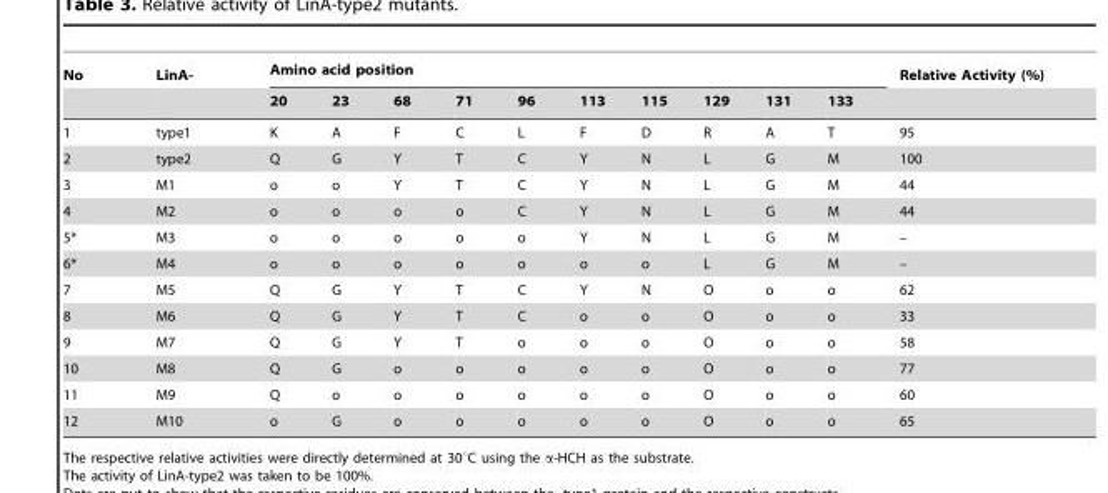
<table><thead><tr><td rowspan="2">No</td><td rowspan="2">LinA-</td><td colspan="10">Amino acid position</td><td rowspan="2">Relative Activity (%)</td></tr><tr><td>20</td><td>23</td><td>68</td><td>71</td><td>96</td><td>113</td><td>115</td><td>129</td><td>131</td><td>133</td></tr></thead><tbody><tr><td>1</td><td>type1</td><td>K</td><td>A</td><td>F</td><td>C</td><td>L</td><td>F</td><td>D</td><td>R</td><td>A</td><td>T</td><td>95</td></tr><tr><td>2</td><td>type2</td><td>Q</td><td>G</td><td>Y</td><td>T</td><td>C</td><td>Y</td><td>N</td><td>L</td><td>G</td><td>M</td><td>100</td></tr><tr><td>3</td><td>M1</td><td>o</td><td>o</td><td>Y</td><td>T</td><td>C</td><td>Y</td><td>N</td><td>L</td><td>G</td><td>M</td><td>44</td></tr><tr><td>4</td><td>M2</td><td>o</td><td>o</td><td>o</td><td>o</td><td>C</td><td>Y</td><td>N</td><td>L</td><td>G</td><td>M</td><td>44</td></tr><tr><td>5*</td><td>M3</td><td>o</td><td>o</td><td>o</td><td>o</td><td>o</td><td>Y</td><td>N</td><td>L</td><td>G</td><td>M</td><td>–</td></tr><tr><td>6*</td><td>M4</td><td>o</td><td>o</td><td>o</td><td>o</td><td>o</td><td>o</td><td>o</td><td>L</td><td>G</td><td>M</td><td>–</td></tr><tr><td>7</td><td>M5</td><td>Q</td><td>G</td><td>Y</td><td>T</td><td>C</td><td>Y</td><td>N</td><td>O</td><td>o</td><td>o</td><td>62</td></tr><tr><td>8</td><td>M6</td><td>Q</td><td>G</td><td>Y</td><td>T</td><td>C</td><td>o</td><td>o</td><td>O</td><td>o</td><td>o</td><td>33</td></tr><tr><td>9</td><td>M7</td><td>Q</td><td>G</td><td>Y</td><td>T</td><td>o</td><td>o</td><td>o</td><td>O</td><td>o</td><td>o</td><td>58</td></tr><tr><td>10</td><td>M8</td><td>Q</td><td>G</td><td>o</td><td>o</td><td>o</td><td>o</td><td>o</td><td>O</td><td>o</td><td>o</td><td>77</td></tr><tr><td>11</td><td>M9</td><td>Q</td><td>o</td><td>o</td><td>o</td><td>o</td><td>o</td><td>o</td><td>O</td><td>o</td><td>o</td><td>60</td></tr><tr><td>12</td><td>M10</td><td>o</td><td>G</td><td>o</td><td>o</td><td>o</td><td>o</td><td>o</td><td>O</td><td>o</td><td>o</td><td>65</td></tr></tbody></table>